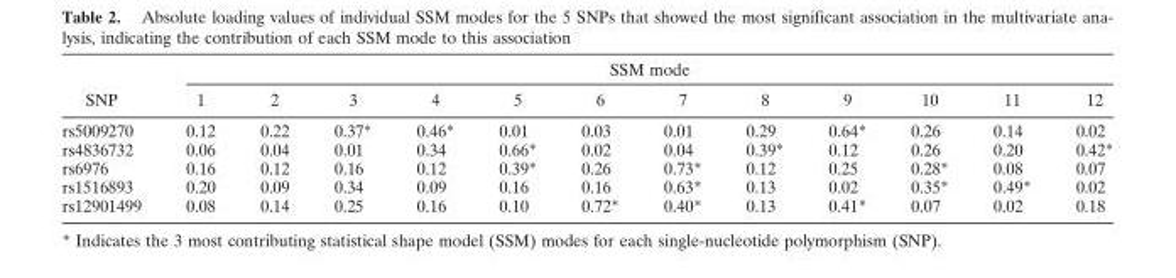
<table><thead><tr><td rowspan="2">SNP</td><td colspan="12">SSM mode</td></tr><tr><td>1</td><td>2</td><td>3</td><td>4</td><td>5</td><td>6</td><td>7</td><td>8</td><td>9</td><td>10</td><td>11</td><td>12</td></tr></thead><tbody><tr><td>rs5009270</td><td>0.12</td><td>0.22</td><td>0.37*</td><td>0.46*</td><td>0.01</td><td>0.03</td><td>0.01</td><td>0.29</td><td>0.64*</td><td>0.26</td><td>0.14</td><td>0.02</td></tr><tr><td>rs4836732</td><td>0.06</td><td>0.04</td><td>0.01</td><td>0.34</td><td>0.66*</td><td>0.02</td><td>0.04</td><td>0.39*</td><td>0.12</td><td>0.26</td><td>0.20</td><td>0.42*</td></tr><tr><td>rs6976</td><td>0.16</td><td>0.12</td><td>0.16</td><td>0.12</td><td>0.39*</td><td>0.26</td><td>0.73*</td><td>0.12</td><td>0.25</td><td>0.28*</td><td>0.08</td><td>0.07</td></tr><tr><td>rs1516893</td><td>0.20</td><td>0.09</td><td>0.34</td><td>0.09</td><td>0.16</td><td>0.16</td><td>0.63*</td><td>0.13</td><td>0.02</td><td>0.35*</td><td>0.49*</td><td>0.02</td></tr><tr><td>rs12901499</td><td>0.08</td><td>0.14</td><td>0.25</td><td>0.16</td><td>0.10</td><td>0.72*</td><td>0.40*</td><td>0.13</td><td>0.41*</td><td>0.07</td><td>0.02</td><td>0.18</td></tr></tbody></table>